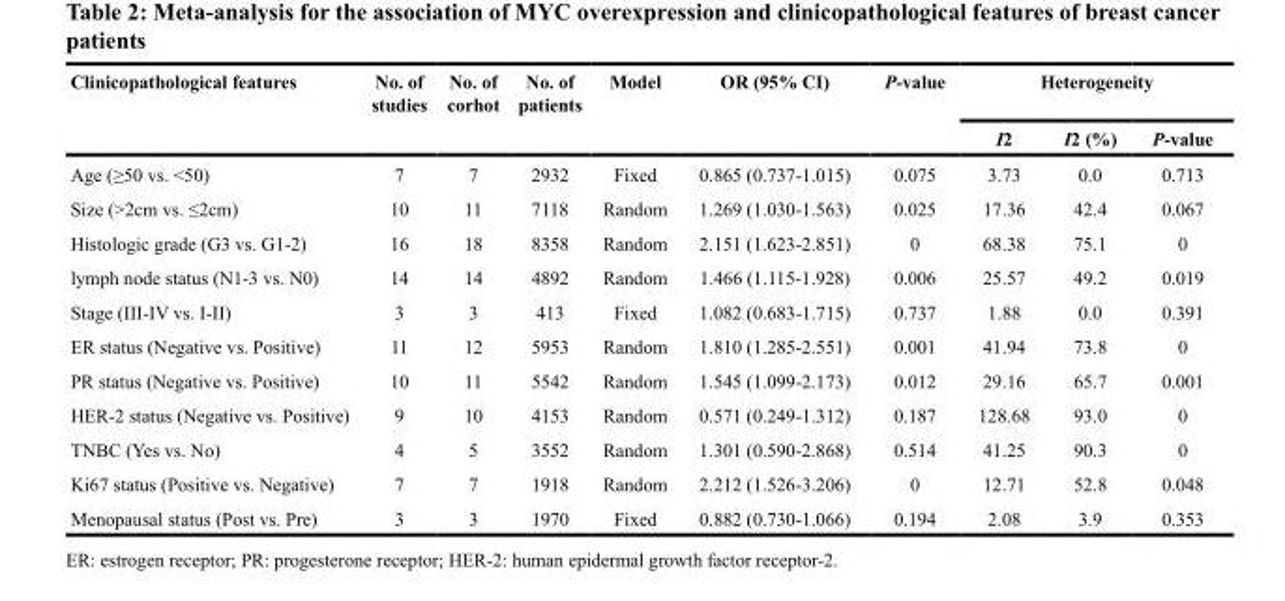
<table><thead><tr><td rowspan="2">Clinicopathological features</td><td rowspan="2">No. of studies</td><td rowspan="2">No. of corhot</td><td rowspan="2">No. of patients</td><td rowspan="2">Model</td><td rowspan="2">OR (95% CI)</td><td rowspan="2">P-value</td><td colspan="3">Heterogeneity</td></tr><tr><td>I2</td><td>I2 (%)</td><td>P-value</td></tr></thead><tbody><tr><td>Age (≥50 vs. &lt;50)</td><td>7</td><td>7</td><td>2932</td><td>Fixed</td><td>0.865 (0.737-1.015)</td><td>0.075</td><td>3.73</td><td>0.0</td><td>0.713</td></tr><tr><td>Size (&gt;2cm vs. ≤2cm)</td><td>10</td><td>11</td><td>7118</td><td>Random</td><td>1.269 (1.030-1.563)</td><td>0.025</td><td>17.36</td><td>42.4</td><td>0.067</td></tr><tr><td>Histologic grade (G3 vs. G1-2)</td><td>16</td><td>18</td><td>8358</td><td>Random</td><td>2.151 (1.623-2.851)</td><td>0</td><td>68.38</td><td>75.1</td><td>0</td></tr><tr><td>lymph node status (N1-3 vs. N0)</td><td>14</td><td>14</td><td>4892</td><td>Random</td><td>1.466 (1.115-1.928)</td><td>0.006</td><td>25.57</td><td>49.2</td><td>0.019</td></tr><tr><td>Stage (III-IV vs. I-II)</td><td>3</td><td>3</td><td>413</td><td>Fixed</td><td>1.082 (0.683-1.715)</td><td>0.737</td><td>1.88</td><td>0.0</td><td>0.391</td></tr><tr><td>ER status (Negative vs. Positive)</td><td>11</td><td>12</td><td>5953</td><td>Random</td><td>1.810 (1.285-2.551)</td><td>0.001</td><td>41.94</td><td>73.8</td><td>0</td></tr><tr><td>PR status (Negative vs. Positive)</td><td>10</td><td>11</td><td>5542</td><td>Random</td><td>1.545 (1.099-2.173)</td><td>0.012</td><td>29.16</td><td>65.7</td><td>0.001</td></tr><tr><td>HER-2 status (Negative vs. Positive)</td><td>9</td><td>10</td><td>4153</td><td>Random</td><td>0.571 (0.249-1.312)</td><td>0.187</td><td>128.68</td><td>93.0</td><td>0</td></tr><tr><td>TNBC (Yes vs. No)</td><td>4</td><td>5</td><td>3552</td><td>Random</td><td>1.301 (0.590-2.868)</td><td>0.514</td><td>41.25</td><td>90.3</td><td>0</td></tr><tr><td>Ki67 status (Positive vs. Negative)</td><td>7</td><td>7</td><td>1918</td><td>Random</td><td>2.212 (1.526-3.206)</td><td>0</td><td>12.71</td><td>52.8</td><td>0.048</td></tr><tr><td>Menopausal status (Post vs. Pre)</td><td>3</td><td>3</td><td>1970</td><td>Fixed</td><td>0.882 (0.730-1.066)</td><td>0.194</td><td>2.08</td><td>3.9</td><td>0.353</td></tr></tbody></table>